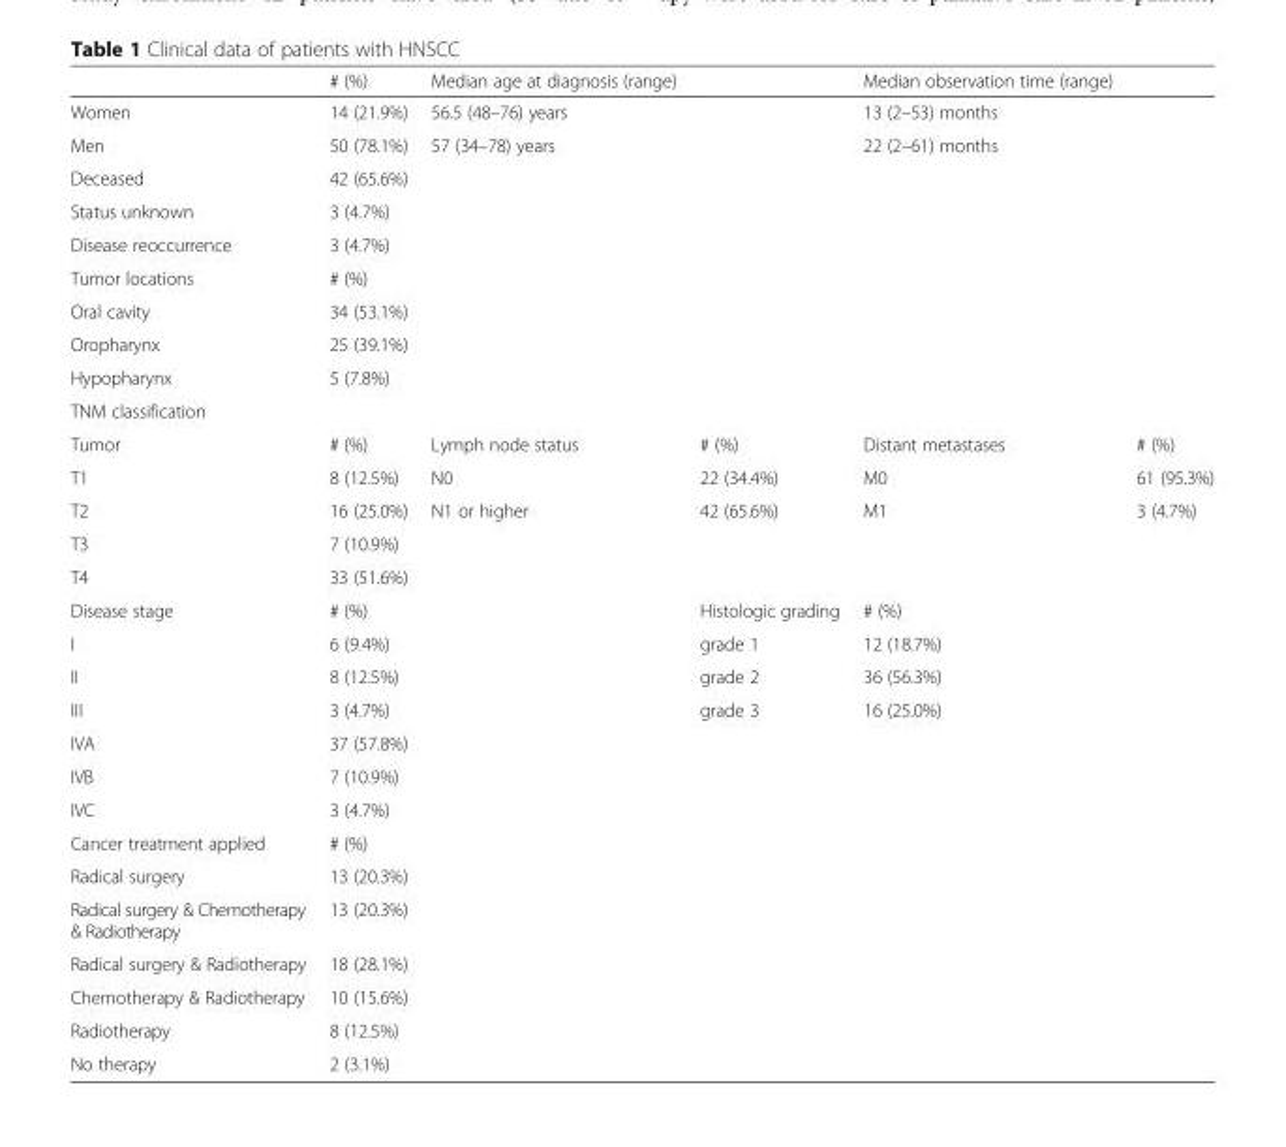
<table><thead><tr><td></td><td># (%)</td><td>Median age at diagnosis (range)</td><td></td><td>Median observation time (range)</td><td></td></tr></thead><tbody><tr><td>Women</td><td>14 (21.9%)</td><td>56.5 (48–76) years</td><td></td><td>13 (2–53) months</td><td></td></tr><tr><td>Men</td><td>50 (78.1%)</td><td>57 (34–78) years</td><td></td><td>22 (2–61) months</td><td></td></tr><tr><td>Deceased</td><td>42 (65.6%)</td><td></td><td></td><td></td><td></td></tr><tr><td>Status unknown</td><td>3 (4.7%)</td><td></td><td></td><td></td><td></td></tr><tr><td>Disease reoccurrence</td><td>3 (4.7%)</td><td></td><td></td><td></td><td></td></tr><tr><td>Tumor locations</td><td># (%)</td><td></td><td></td><td></td><td></td></tr><tr><td>Oral cavity</td><td>34 (53.1%)</td><td></td><td></td><td></td><td></td></tr><tr><td>Oropharynx</td><td>25 (39.1%)</td><td></td><td></td><td></td><td></td></tr><tr><td>Hypopharynx</td><td>5 (7.8%)</td><td></td><td></td><td></td><td></td></tr><tr><td colspan="6">TNM classification</td></tr><tr><td>Tumor</td><td># (%)</td><td>Lymph node status</td><td># (%)</td><td>Distant metastases</td><td># (%)</td></tr><tr><td>T1</td><td>8 (12.5%)</td><td>N0</td><td>22 (34.4%)</td><td>M0</td><td>61 (95.3%)</td></tr><tr><td>T2</td><td>16 (25.0%)</td><td>N1 or higher</td><td>42 (65.6%)</td><td>M1</td><td>3 (4.7%)</td></tr><tr><td>T3</td><td>7 (10.9%)</td><td></td><td></td><td></td><td></td></tr><tr><td>T4</td><td>33 (51.6%)</td><td></td><td></td><td></td><td></td></tr><tr><td>Disease stage</td><td># (%)</td><td></td><td>Histologic grading</td><td># (%)</td><td></td></tr><tr><td>I</td><td>6 (9.4%)</td><td></td><td>grade 1</td><td>12 (18.7%)</td><td></td></tr><tr><td>II</td><td>8 (12.5%)</td><td></td><td>grade 2</td><td>36 (56.3%)</td><td></td></tr><tr><td>III</td><td>3 (4.7%)</td><td></td><td>grade 3</td><td>16 (25.0%)</td><td></td></tr><tr><td>IVA</td><td>37 (57.8%)</td><td></td><td></td><td></td><td></td></tr><tr><td>IVB</td><td>7 (10.9%)</td><td></td><td></td><td></td><td></td></tr><tr><td>IVC</td><td>3 (4.7%)</td><td></td><td></td><td></td><td></td></tr><tr><td>Cancer treatment applied</td><td># (%)</td><td></td><td></td><td></td><td></td></tr><tr><td>Radical surgery</td><td>13 (20.3%)</td><td></td><td></td><td></td><td></td></tr><tr><td>Radical surgery &amp; Chemotherapy &amp; Radiotherapy</td><td>13 (20.3%)</td><td></td><td></td><td></td><td></td></tr><tr><td>Radical surgery &amp; Radiotherapy</td><td>18 (28.1%)</td><td></td><td></td><td></td><td></td></tr><tr><td>Chemotherapy &amp; Radiotherapy</td><td>10 (15.6%)</td><td></td><td></td><td></td><td></td></tr><tr><td>Radiotherapy</td><td>8 (12.5%)</td><td></td><td></td><td></td><td></td></tr><tr><td>No therapy</td><td>2 (3.1%)</td><td></td><td></td><td></td><td></td></tr></tbody></table>